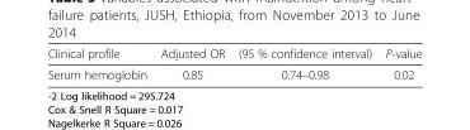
<table><thead><tr><td>Clinical profile</td><td>Adjusted OR</td><td>(95 % confidence interval)</td><td>P-value</td></tr></thead><tbody><tr><td>Serum hemoglobin</td><td>0.85</td><td>0.74–0.98</td><td>0.02</td></tr></tbody></table>